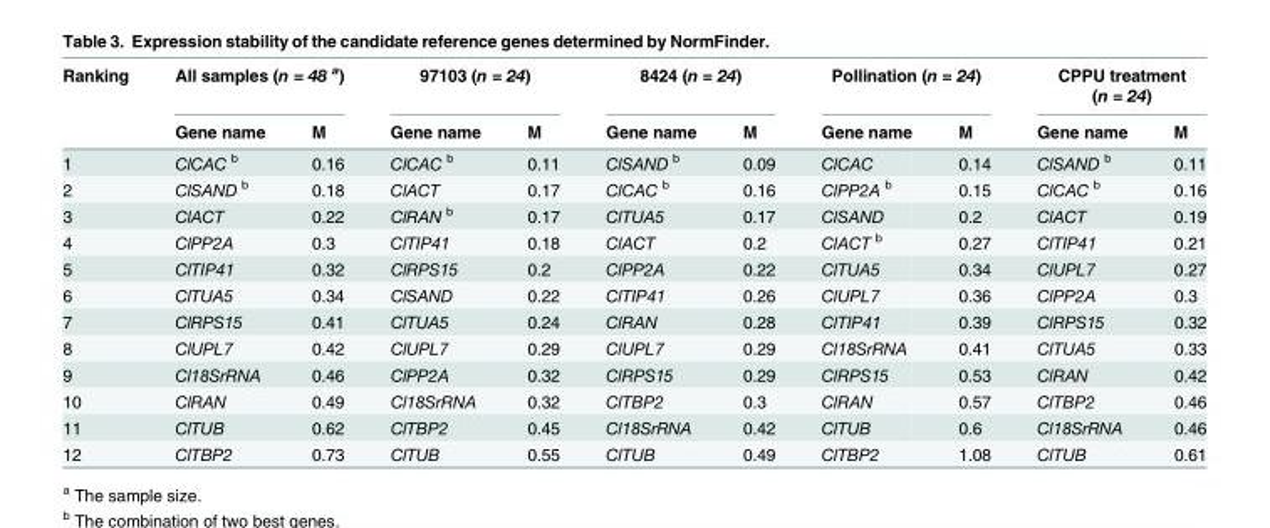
<table><thead><tr><td rowspan="2">Ranking</td><td colspan="2">All samples (n = 48 <sup>a</sup>)</td><td colspan="2">97103 (n = 24)</td><td colspan="2">8424 (n = 24)</td><td colspan="2">Pollination (n = 24)</td><td colspan="2">CPPU treatment (n = 24)</td></tr><tr><td>Gene name</td><td>M</td><td>Gene name</td><td>M</td><td>Gene name</td><td>M</td><td>Gene name</td><td>M</td><td>Gene name</td><td>M</td></tr></thead><tbody><tr><td>1</td><td>ClCAC <sup>b</sup></td><td>0.16</td><td>ClCAC <sup>b</sup></td><td>0.11</td><td>ClSAND <sup>b</sup></td><td>0.09</td><td>ClCAC</td><td>0.14</td><td>ClSAND <sup>b</sup></td><td>0.11</td></tr><tr><td>2</td><td>ClSAND <sup>b</sup></td><td>0.18</td><td>ClACT</td><td>0.17</td><td>ClCAC <sup>b</sup></td><td>0.16</td><td>ClPP2A <sup>b</sup></td><td>0.15</td><td>ClCAC <sup>b</sup></td><td>0.16</td></tr><tr><td>3</td><td>ClACT</td><td>0.22</td><td>ClRAN <sup>b</sup></td><td>0.17</td><td>ClTUA5</td><td>0.17</td><td>ClSAND</td><td>0.2</td><td>ClACT</td><td>0.19</td></tr><tr><td>4</td><td>ClPP2A</td><td>0.3</td><td>ClTIP41</td><td>0.18</td><td>ClACT</td><td>0.2</td><td>ClACT <sup>b</sup></td><td>0.27</td><td>ClTIP41</td><td>0.21</td></tr><tr><td>5</td><td>ClTIP41</td><td>0.32</td><td>ClRPS15</td><td>0.2</td><td>ClPP2A</td><td>0.22</td><td>ClTUA5</td><td>0.34</td><td>ClUPL7</td><td>0.27</td></tr><tr><td>6</td><td>ClTUA5</td><td>0.34</td><td>ClSAND</td><td>0.22</td><td>ClTIP41</td><td>0.26</td><td>ClUPL7</td><td>0.36</td><td>ClPP2A</td><td>0.3</td></tr><tr><td>7</td><td>ClRPS15</td><td>0.41</td><td>ClTUA5</td><td>0.24</td><td>ClRAN</td><td>0.28</td><td>ClTIP41</td><td>0.39</td><td>ClRPS15</td><td>0.32</td></tr><tr><td>8</td><td>ClUPL7</td><td>0.42</td><td>ClUPL7</td><td>0.29</td><td>ClUPL7</td><td>0.29</td><td>Cl18SrRNA</td><td>0.41</td><td>ClTUA5</td><td>0.33</td></tr><tr><td>9</td><td>Cl18SrRNA</td><td>0.46</td><td>ClPP2A</td><td>0.32</td><td>ClRPS15</td><td>0.29</td><td>ClRPS15</td><td>0.53</td><td>ClRAN</td><td>0.42</td></tr><tr><td>10</td><td>ClRAN</td><td>0.49</td><td>Cl18SrRNA</td><td>0.32</td><td>ClTBP2</td><td>0.3</td><td>ClRAN</td><td>0.57</td><td>ClTBP2</td><td>0.46</td></tr><tr><td>11</td><td>ClTUB</td><td>0.62</td><td>ClTBP2</td><td>0.45</td><td>Cl18SrRNA</td><td>0.42</td><td>ClTUB</td><td>0.6</td><td>Cl18SrRNA</td><td>0.46</td></tr><tr><td>12</td><td>ClTBP2</td><td>0.73</td><td>ClTUB</td><td>0.55</td><td>ClTUB</td><td>0.49</td><td>ClTBP2</td><td>1.08</td><td>ClTUB</td><td>0.61</td></tr></tbody></table>